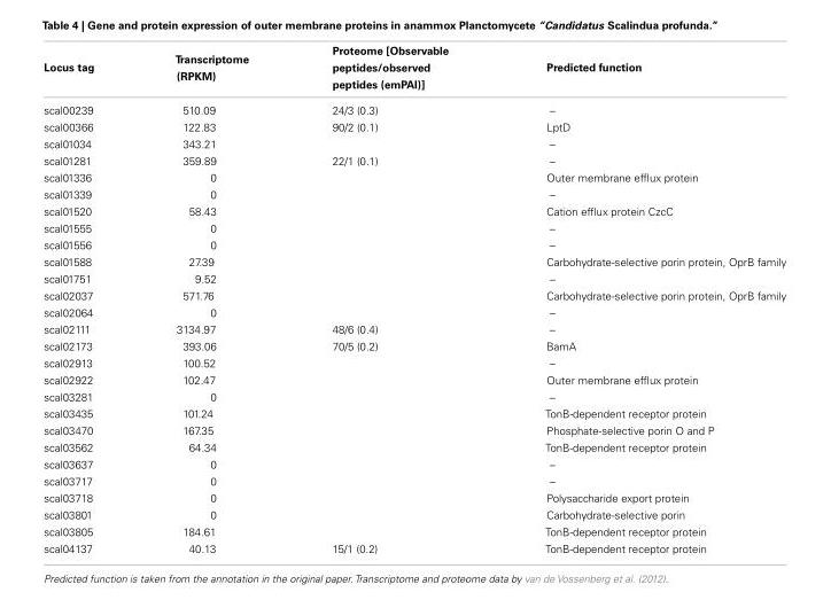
<table><thead><tr><td>Locus tag</td><td>Transcriptome (RPKM)</td><td>Proteome [Observable peptides/observed peptides (emPAI)]</td><td>Predicted function</td></tr></thead><tbody><tr><td>scal00239</td><td>510.09</td><td>24/3 (0.3)</td><td>–</td></tr><tr><td>scal00366</td><td>122.83</td><td>90/2 (0.1)</td><td>LptD</td></tr><tr><td>scal01034</td><td>343.21</td><td></td><td>–</td></tr><tr><td>scal01281</td><td>359.89</td><td>22/1 (0.1)</td><td>–</td></tr><tr><td>scal01336</td><td>0</td><td></td><td>Outer membrane efflux protein</td></tr><tr><td>scal01339</td><td>0</td><td></td><td>–</td></tr><tr><td>scal01520</td><td>58.43</td><td></td><td>Cation efflux protein CzcC</td></tr><tr><td>scal01555</td><td>0</td><td></td><td>–</td></tr><tr><td>scal01556</td><td>0</td><td></td><td>–</td></tr><tr><td>scal01588</td><td>27.39</td><td></td><td>Carbohydrate-selective porin protein, OprB family</td></tr><tr><td>scal01751</td><td>9.52</td><td></td><td>–</td></tr><tr><td>scal02037</td><td>571.76</td><td></td><td>Carbohydrate-selective porin protein, OprB family</td></tr><tr><td>scal02064</td><td>0</td><td></td><td>–</td></tr><tr><td>scal02111</td><td>3134.97</td><td>48/6 (0.4)</td><td>–</td></tr><tr><td>scal02173</td><td>393.06</td><td>70/5 (0.2)</td><td>BamA</td></tr><tr><td>scal02913</td><td>100.52</td><td></td><td>–</td></tr><tr><td>scal02922</td><td>102.47</td><td></td><td>Outer membrane efflux protein</td></tr><tr><td>scal03281</td><td>0</td><td></td><td>–</td></tr><tr><td>scal03435</td><td>101.24</td><td></td><td>TonB-dependent receptor protein</td></tr><tr><td>scal03470</td><td>167.35</td><td></td><td>Phosphate-selective porin O and P</td></tr><tr><td>scal03562</td><td>64.34</td><td></td><td>TonB-dependent receptor protein</td></tr><tr><td>scal03637</td><td>0</td><td></td><td>–</td></tr><tr><td>scal03717</td><td>0</td><td></td><td>–</td></tr><tr><td>scal03718</td><td>0</td><td></td><td>Polysaccharide export protein</td></tr><tr><td>scal03801</td><td>0</td><td></td><td>Carbohydrate-selective porin</td></tr><tr><td>scal03805</td><td>184.61</td><td></td><td>TonB-dependent receptor protein</td></tr><tr><td>scal04137</td><td>40.13</td><td>15/1 (0.2)</td><td>TonB-dependent receptor protein</td></tr></tbody></table>